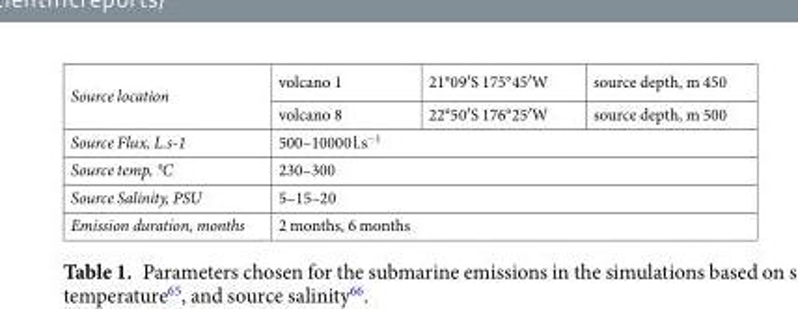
<table><tbody><tr><td rowspan="2">Source location</td><td>volcano 1</td><td>21°09′S 175°45′W</td><td>source depth, m 450</td></tr><tr><td>volcano 8</td><td>22°50′S 176°25′W</td><td>source depth, m 500</td></tr><tr><td>Source Flux, L.s-1</td><td colspan="3">500–10000 l.s<sup>−1</sup></td></tr><tr><td>Source temp, °C</td><td colspan="3">230–300</td></tr><tr><td>Source Salinity, PSU</td><td colspan="3">5–15–20</td></tr><tr><td>Emission duration, months</td><td colspan="3">2 months, 6 months</td></tr></tbody></table>